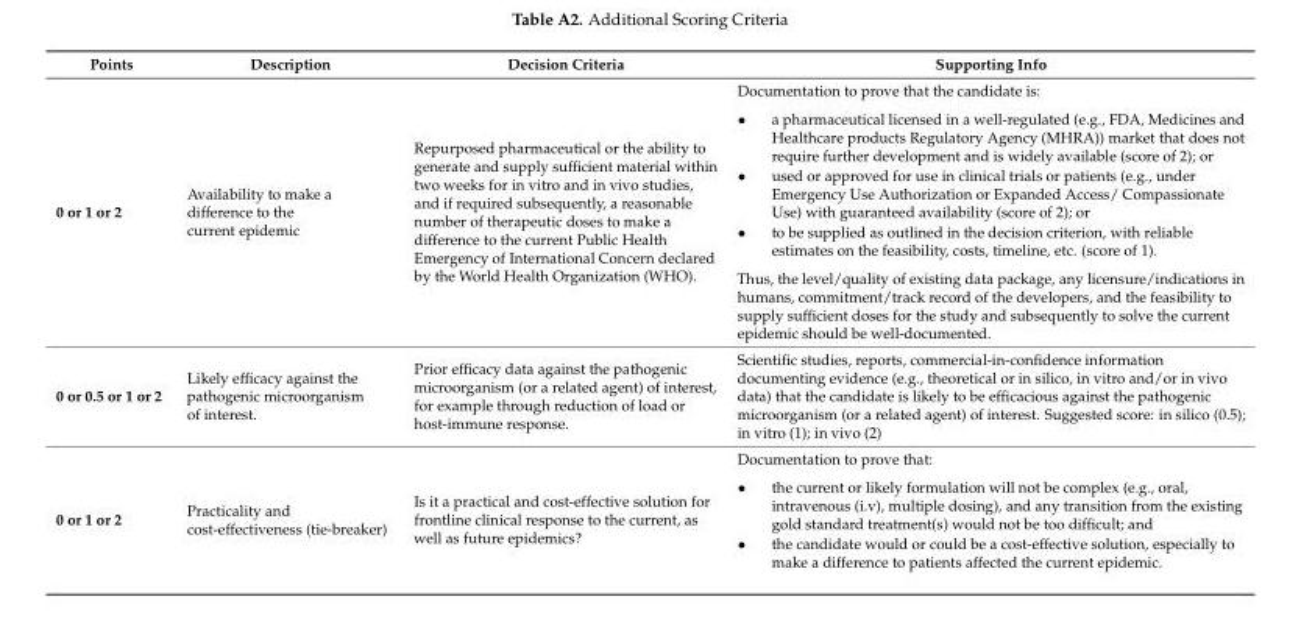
<table><thead><tr><td>Points</td><td>Description</td><td>Decision Criteria</td><td>Supporting Info</td></tr></thead><tbody><tr><td>0 or 1 or 2</td><td>Availability to make a difference to the current epidemic</td><td>Repurposed pharmaceutical or the ability to generate and supply sufficient material within two weeks for in vitro and in vivo studies, and if required subsequently, a reasonable number of therapeutic doses to make a difference to the current Public Health Emergency of International Concern declared by the World Health Organization (WHO).</td><td>Documentation to prove that the candidate is: • a pharmaceutical licensed in a well-regulated (e.g., FDA, Medicines and Healthcare products Regulatory Agency (MHRA)) market that does not require further development and is widely available (score of 2); or • used or approved for use in clinical trials or patients (e.g., under Emergency Use Authorization or Expanded Access/ Compassionate Use) with guaranteed availability (score of 2); or • to be supplied as outlined in the decision criterion, with reliable estimates on the feasibility, costs, timeline, etc. (score of 1). Thus, the level/quality of existing data package, any licensure/indications in humans, commitment/track record of the developers, and the feasibility to supply sufficient doses for the study and subsequently to solve the current epidemic should be well-documented.</td></tr><tr><td>0 or 0.5 or 1 or 2</td><td>Likely efficacy against the pathogenic microorganism of interest.</td><td>Prior efficacy data against the pathogenic microorganism (or a related agent) of interest, for example through reduction of load or host-immune response.</td><td>Scientific studies, reports, commercial-in-confidence information documenting evidence (e.g., theoretical or in silico, in vitro and/or in vivo data) that the candidate is likely to be efficacious against the pathogenic microorganism (or a related agent) of interest. Suggested score: in silico (0.5); in vitro (1); in vivo (2)</td></tr><tr><td>0 or 1 or 2</td><td>Practicality and cost-effectiveness (tie-breaker)</td><td>Is it a practical and cost-effective solution for frontline clinical response to the current, as well as future epidemics?</td><td>Documentation to prove that: • the current or likely formulation will not be complex (e.g., oral, intravenous (i.v), multiple dosing), and any transition from the existing gold standard treatment(s) would not be too difficult; and • the candidate would or could be a cost-effective solution, especially to make a difference to patients affected the current epidemic.</td></tr></tbody></table>